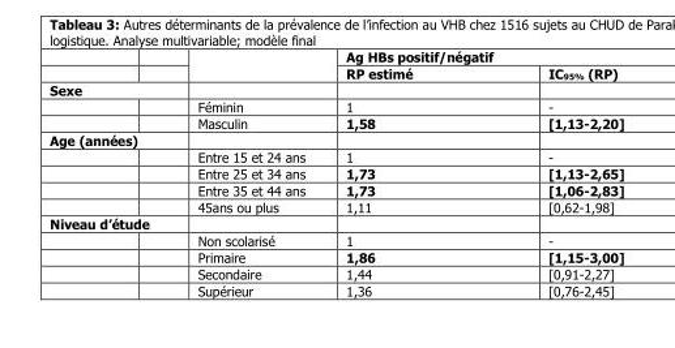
<table><thead><tr><td rowspan="2"></td><td rowspan="2"></td><td colspan="2">Ag HBs positif/négatif</td></tr><tr><td>RP estimé</td><td>IC<sub>95%</sub> (RP)</td></tr></thead><tbody><tr><td colspan="4">Sexe</td></tr><tr><td></td><td>Féminin</td><td>1</td><td>-</td></tr><tr><td></td><td>Masculin</td><td>1,58</td><td>[1,13-2,20]</td></tr><tr><td colspan="4">Age (années)</td></tr><tr><td></td><td>Entre 15 et 24 ans</td><td>1</td><td>-</td></tr><tr><td></td><td>Entre 25 et 34 ans</td><td>1,73</td><td>[1,13-2,65]</td></tr><tr><td></td><td>Entre 35 et 44 ans</td><td>1,73</td><td>[1,06-2,83]</td></tr><tr><td></td><td>45ans ou plus</td><td>1,11</td><td>[0,62-1,98]</td></tr><tr><td colspan="4">Niveau d’étude</td></tr><tr><td></td><td>Non scolarisé</td><td>1</td><td>-</td></tr><tr><td></td><td>Primaire</td><td>1,86</td><td>[1,15-3,00]</td></tr><tr><td></td><td>Secondaire</td><td>1,44</td><td>[0,91-2,27]</td></tr><tr><td></td><td>Supérieur</td><td>1,36</td><td>[0,76-2,45]</td></tr></tbody></table>